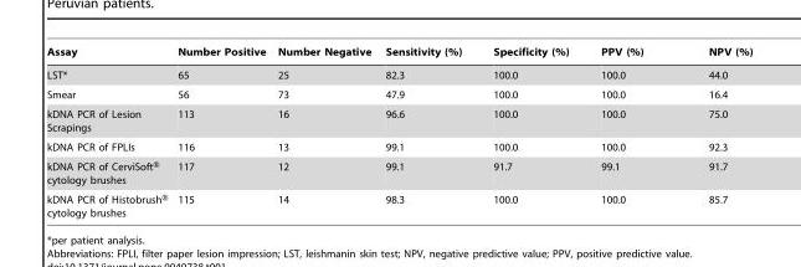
<table><thead><tr><td>Assay</td><td>Number Positive</td><td>Number Negative</td><td>Sensitivity (%)</td><td>Specificity (%)</td><td>PPV (%)</td><td>NPV (%)</td></tr></thead><tbody><tr><td>LST*</td><td>65</td><td>25</td><td>82.3</td><td>100.0</td><td>100.0</td><td>44.0</td></tr><tr><td>Smear</td><td>56</td><td>73</td><td>47.9</td><td>100.0</td><td>100.0</td><td>16.4</td></tr><tr><td>kDNA PCR of Lesion Scrapings</td><td>113</td><td>16</td><td>96.6</td><td>100.0</td><td>100.0</td><td>75.0</td></tr><tr><td>kDNA PCR of FPLIs</td><td>116</td><td>13</td><td>99.1</td><td>100.0</td><td>100.0</td><td>92.3</td></tr><tr><td>kDNA PCR of CerviSoft® cytology brushes</td><td>117</td><td>12</td><td>99.1</td><td>91.7</td><td>99.1</td><td>91.7</td></tr><tr><td>kDNA PCR of Histobrush® cytology brushes</td><td>115</td><td>14</td><td>98.3</td><td>100.0</td><td>100.0</td><td>85.7</td></tr></tbody></table>